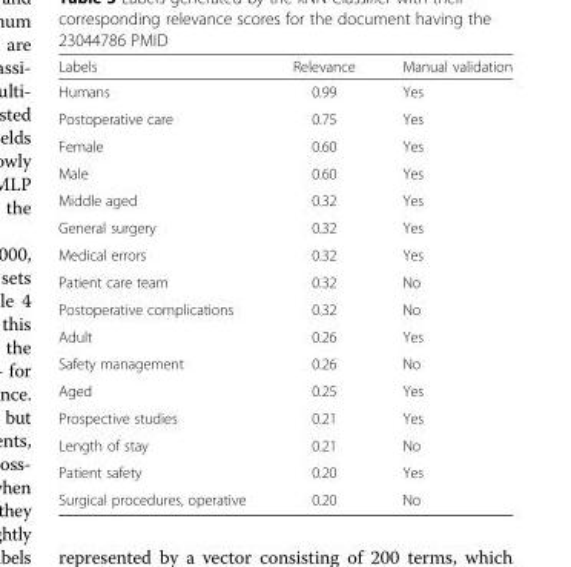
<table><thead><tr><td>Labels</td><td>Relevance</td><td>Manual validation</td></tr></thead><tbody><tr><td>Humans</td><td>0.99</td><td>Yes</td></tr><tr><td>Postoperative care</td><td>0.75</td><td>Yes</td></tr><tr><td>Female</td><td>0.60</td><td>Yes</td></tr><tr><td>Male</td><td>0.60</td><td>Yes</td></tr><tr><td>Middle aged</td><td>0.32</td><td>Yes</td></tr><tr><td>General surgery</td><td>0.32</td><td>Yes</td></tr><tr><td>Medical errors</td><td>0.32</td><td>Yes</td></tr><tr><td>Patient care team</td><td>0.32</td><td>No</td></tr><tr><td>Postoperative complications</td><td>0.32</td><td>No</td></tr><tr><td>Adult</td><td>0.26</td><td>Yes</td></tr><tr><td>Safety management</td><td>0.26</td><td>No</td></tr><tr><td>Aged</td><td>0.25</td><td>Yes</td></tr><tr><td>Prospective studies</td><td>0.21</td><td>Yes</td></tr><tr><td>Length of stay</td><td>0.21</td><td>No</td></tr><tr><td>Patient safety</td><td>0.20</td><td>Yes</td></tr><tr><td>Surgical procedures, operative</td><td>0.20</td><td>No</td></tr></tbody></table>